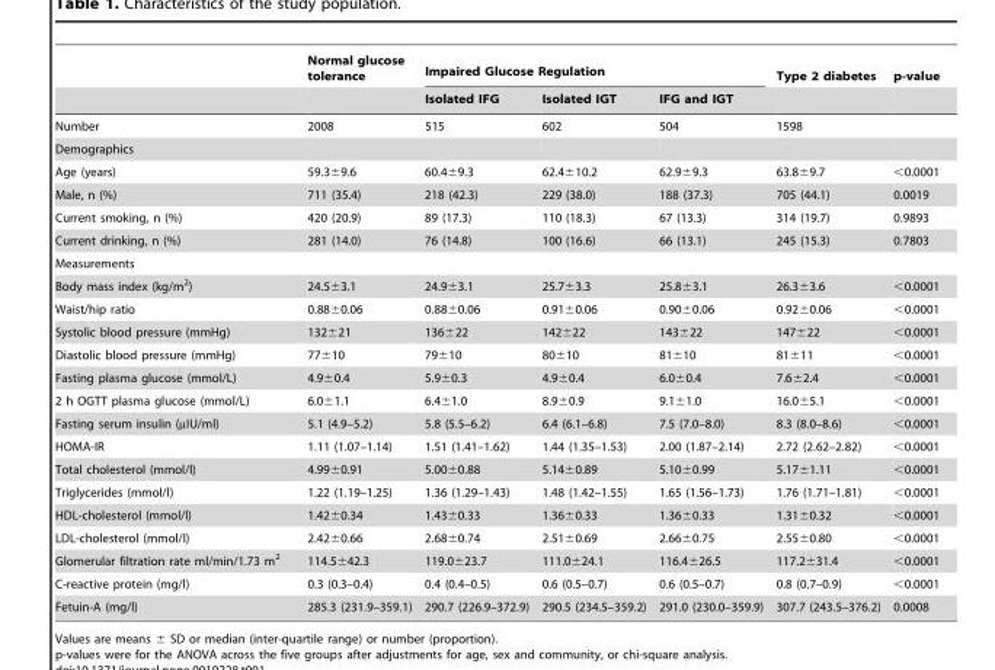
<table><thead><tr><td rowspan="2"></td><td rowspan="2">Normal glucose tolerance</td><td colspan="3">Impaired Glucose Regulation</td><td rowspan="2">Type 2 diabetes</td><td rowspan="2">p-value</td></tr><tr><td>Isolated IFG</td><td>Isolated IGT</td><td>IFG and IGT</td></tr></thead><tbody><tr><td>Number</td><td>2008</td><td>515</td><td>602</td><td>504</td><td>1598</td><td></td></tr><tr><td colspan="7">Demographics</td></tr><tr><td>Age (years)</td><td>59.3±9.6</td><td>60.4±9.3</td><td>62.4±10.2</td><td>62.9±9.3</td><td>63.8±9.7</td><td>&lt;0.0001</td></tr><tr><td>Male, n (%)</td><td>711 (35.4)</td><td>218 (42.3)</td><td>229 (38.0)</td><td>188 (37.3)</td><td>705 (44.1)</td><td>0.0019</td></tr><tr><td>Current smoking, n (%)</td><td>420 (20.9)</td><td>89 (17.3)</td><td>110 (18.3)</td><td>67 (13.3)</td><td>314 (19.7)</td><td>0.9893</td></tr><tr><td>Current drinking, n (%)</td><td>281 (14.0)</td><td>76 (14.8)</td><td>100 (16.6)</td><td>66 (13.1)</td><td>245 (15.3)</td><td>0.7803</td></tr><tr><td colspan="7">Measurements</td></tr><tr><td>Body mass index (kg/m<sup>2</sup>)</td><td>24.5±3.1</td><td>24.9±3.1</td><td>25.7±3.3</td><td>25.8±3.1</td><td>26.3±3.6</td><td>&lt;0.0001</td></tr><tr><td>Waist/hip ratio</td><td>0.88±0.06</td><td>0.88±0.06</td><td>0.91±0.06</td><td>0.90±0.06</td><td>0.92±0.06</td><td>&lt;0.0001</td></tr><tr><td>Systolic blood pressure (mmHg)</td><td>132±21</td><td>136±22</td><td>142±22</td><td>143±22</td><td>147±22</td><td>&lt;0.0001</td></tr><tr><td>Diastolic blood pressure (mmHg)</td><td>77±10</td><td>79±10</td><td>80±10</td><td>81±10</td><td>81±11</td><td>&lt;0.0001</td></tr><tr><td>Fasting plasma glucose (mmol/L)</td><td>4.9±0.4</td><td>5.9±0.3</td><td>4.9±0.4</td><td>6.0±0.4</td><td>7.6±2.4</td><td>&lt;0.0001</td></tr><tr><td>2 h OGTT plasma glucose (mmol/L)</td><td>6.0±1.1</td><td>6.4±1.0</td><td>8.9±0.9</td><td>9.1±1.0</td><td>16.0±5.1</td><td>&lt;0.0001</td></tr><tr><td>Fasting serum insulin (µIU/ml)</td><td>5.1 (4.9–5.2)</td><td>5.8 (5.5–6.2)</td><td>6.4 (6.1–6.8)</td><td>7.5 (7.0–8.0)</td><td>8.3 (8.0–8.6)</td><td>&lt;0.0001</td></tr><tr><td>HOMA-IR</td><td>1.11 (1.07–1.14)</td><td>1.51 (1.41–1.62)</td><td>1.44 (1.35–1.53)</td><td>2.00 (1.87–2.14)</td><td>2.72 (2.62–2.82)</td><td>&lt;0.0001</td></tr><tr><td>Total cholesterol (mmol/l)</td><td>4.99±0.91</td><td>5.00±0.88</td><td>5.14±0.89</td><td>5.10±0.99</td><td>5.17±1.11</td><td>&lt;0.0001</td></tr><tr><td>Triglycerides (mmol/l)</td><td>1.22 (1.19–1.25)</td><td>1.36 (1.29–1.43)</td><td>1.48 (1.42–1.55)</td><td>1.65 (1.56–1.73)</td><td>1.76 (1.71–1.81)</td><td>&lt;0.0001</td></tr><tr><td>HDL-cholesterol (mmol/l)</td><td>1.42±0.34</td><td>1.43±0.33</td><td>1.36±0.33</td><td>1.36±0.33</td><td>1.31±0.32</td><td>&lt;0.0001</td></tr><tr><td>LDL-cholesterol (mmol/l)</td><td>2.42±0.66</td><td>2.68±0.74</td><td>2.51±0.69</td><td>2.66±0.75</td><td>2.55±0.80</td><td>&lt;0.0001</td></tr><tr><td>Glomerular filtration rate ml/min/1.73 m<sup>2</sup></td><td>114.5±42.3</td><td>119.0±23.7</td><td>111.0±24.1</td><td>116.4±26.5</td><td>117.2±31.4</td><td>&lt;0.0001</td></tr><tr><td>C-reactive protein (mg/l)</td><td>0.3 (0.3–0.4)</td><td>0.4 (0.4–0.5)</td><td>0.6 (0.5–0.7)</td><td>0.6 (0.5–0.7)</td><td>0.8 (0.7–0.9)</td><td>&lt;0.0001</td></tr><tr><td>Fetuin-A (mg/l)</td><td>285.3 (231.9–359.1)</td><td>290.7 (226.9–372.9)</td><td>290.5 (234.5–359.2)</td><td>291.0 (230.0–359.9)</td><td>307.7 (243.5–376.2)</td><td>0.0008</td></tr></tbody></table>